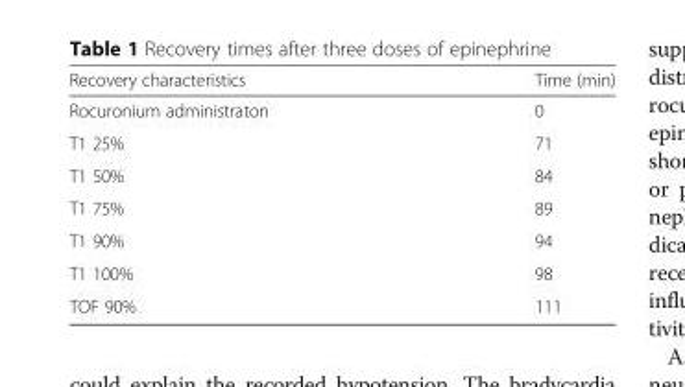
<table><thead><tr><td>Recovery characteristics</td><td>Time (min)</td></tr></thead><tbody><tr><td>Rocuronium administraton</td><td>0</td></tr><tr><td>T1 25%</td><td>71</td></tr><tr><td>T1 50%</td><td>84</td></tr><tr><td>T1 75%</td><td>89</td></tr><tr><td>T1 90%</td><td>94</td></tr><tr><td>T1 100%</td><td>98</td></tr><tr><td>TOF 90%</td><td>111</td></tr></tbody></table>